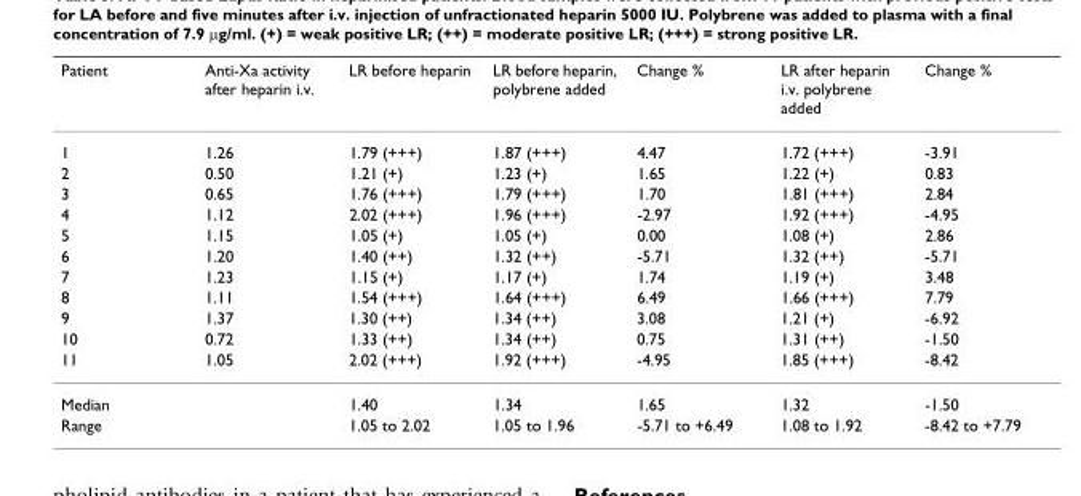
<table><thead><tr><td>Patient</td><td>Anti-Xa activity after heparin i.v.</td><td>LR before heparin</td><td>LR before heparin, polybrene added</td><td>Change %</td><td>LR after heparin i.v. polybrene added</td><td>Change %</td></tr></thead><tbody><tr><td>1</td><td>1.26</td><td>1.79 (+++)</td><td>1.87 (+++)</td><td>4.47</td><td>1.72 (+++)</td><td>-3.91</td></tr><tr><td>2</td><td>0.50</td><td>1.21 (+)</td><td>1.23 (+)</td><td>1.65</td><td>1.22 (+)</td><td>0.83</td></tr><tr><td>3</td><td>0.65</td><td>1.76 (+++)</td><td>1.79 (+++)</td><td>1.70</td><td>1.81 (+++)</td><td>2.84</td></tr><tr><td>4</td><td>1.12</td><td>2.02 (+++)</td><td>1.96 (+++)</td><td>-2.97</td><td>1.92 (+++)</td><td>-4.95</td></tr><tr><td>5</td><td>1.15</td><td>1.05 (+)</td><td>1.05 (+)</td><td>0.00</td><td>1.08 (+)</td><td>2.86</td></tr><tr><td>6</td><td>1.20</td><td>1.40 (++)</td><td>1.32 (++)</td><td>-5.71</td><td>1.32 (++)</td><td>-5.71</td></tr><tr><td>7</td><td>1.23</td><td>1.15 (+)</td><td>1.17 (+)</td><td>1.74</td><td>1.19 (+)</td><td>3.48</td></tr><tr><td>8</td><td>1.11</td><td>1.54 (+++)</td><td>1.64 (+++)</td><td>6.49</td><td>1.66 (+++)</td><td>7.79</td></tr><tr><td>9</td><td>1.37</td><td>1.30 (++)</td><td>1.34 (++)</td><td>3.08</td><td>1.21 (+)</td><td>-6.92</td></tr><tr><td>10</td><td>0.72</td><td>1.33 (++)</td><td>1.34 (++)</td><td>0.75</td><td>1.31 (++)</td><td>-1.50</td></tr><tr><td>11</td><td>1.05</td><td>2.02 (+++)</td><td>1.92 (+++)</td><td>-4.95</td><td>1.85 (+++)</td><td>-8.42</td></tr><tr><td>Median</td><td></td><td>1.40</td><td>1.34</td><td>1.65</td><td>1.32</td><td>-1.50</td></tr><tr><td>Range</td><td></td><td>1.05 to 2.02</td><td>1.05 to 1.96</td><td>-5.71 to +6.49</td><td>1.08 to 1.92</td><td>-8.42 to +7.79</td></tr></tbody></table>